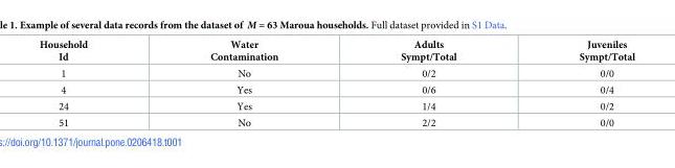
<table><thead><tr><td>Household Id</td><td>Water Contamination</td><td>Adults Sympt/Total</td><td>Juveniles Sympt/Total</td></tr></thead><tbody><tr><td>1</td><td>No</td><td>0/2</td><td>0/0</td></tr><tr><td>4</td><td>Yes</td><td>0/6</td><td>0/4</td></tr><tr><td>24</td><td>Yes</td><td>1/4</td><td>0/2</td></tr><tr><td>51</td><td>No</td><td>2/2</td><td>0/0</td></tr></tbody></table>